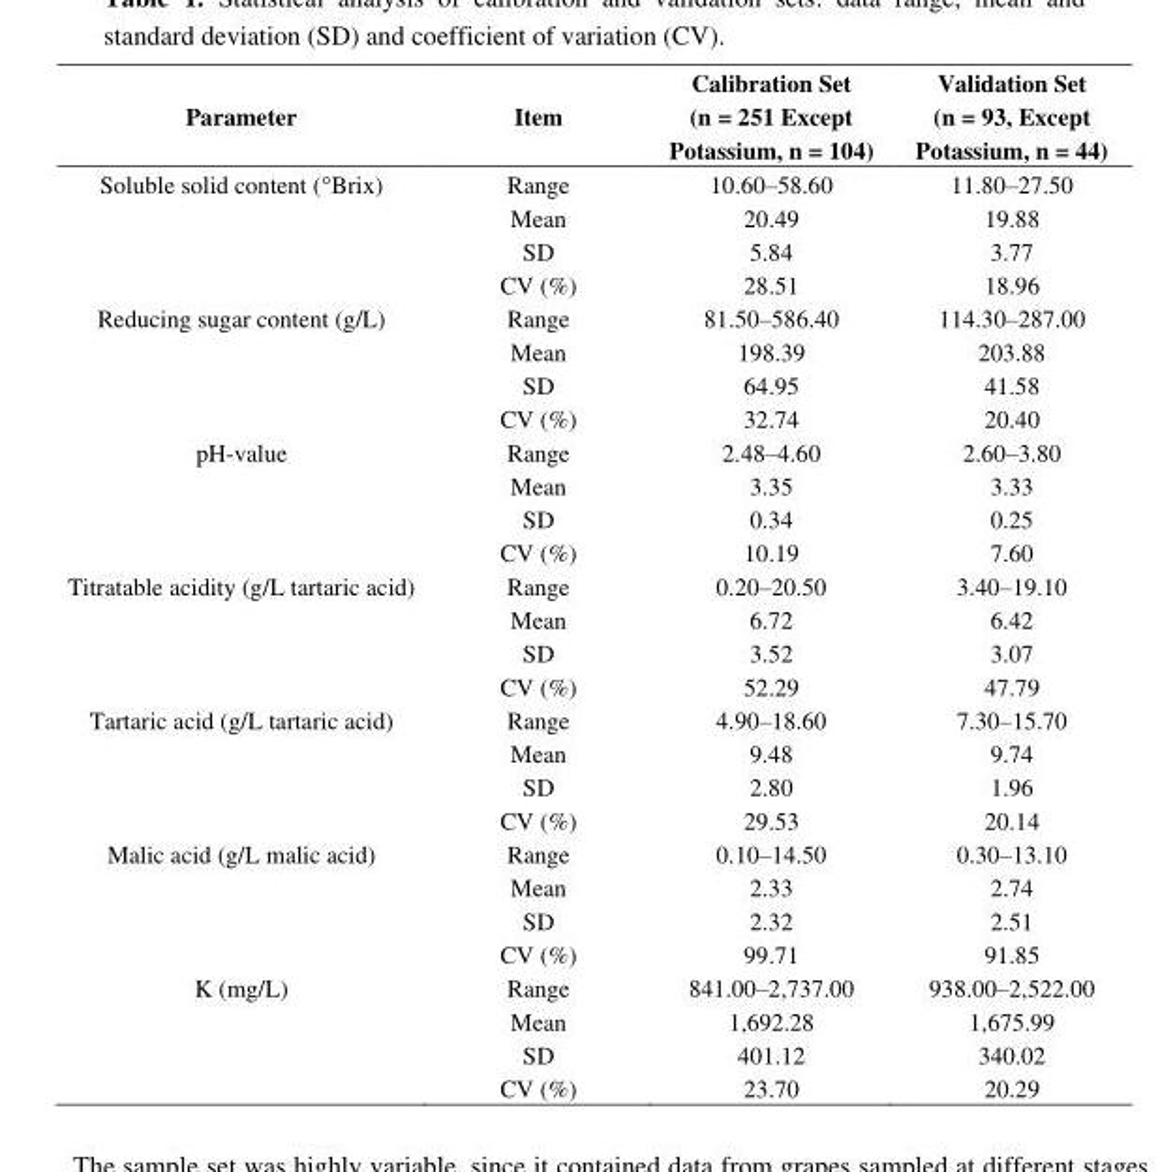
<table><thead><tr><td>Parameter</td><td>Item</td><td>Calibration Set (n = 251 Except Potassium, n = 104)</td><td>Validation Set (n = 93, Except Potassium, n = 44)</td></tr></thead><tbody><tr><td rowspan="4">Soluble solid content (°Brix)</td><td>Range</td><td>10.60–58.60</td><td>11.80–27.50</td></tr><tr><td>Mean</td><td>20.49</td><td>19.88</td></tr><tr><td>SD</td><td>5.84</td><td>3.77</td></tr><tr><td>CV (%)</td><td>28.51</td><td>18.96</td></tr><tr><td rowspan="4">Reducing sugar content (g/L)</td><td>Range</td><td>81.50–586.40</td><td>114.30–287.00</td></tr><tr><td>Mean</td><td>198.39</td><td>203.88</td></tr><tr><td>SD</td><td>64.95</td><td>41.58</td></tr><tr><td>CV (%)</td><td>32.74</td><td>20.40</td></tr><tr><td rowspan="4">pH-value</td><td>Range</td><td>2.48–4.60</td><td>2.60–3.80</td></tr><tr><td>Mean</td><td>3.35</td><td>3.33</td></tr><tr><td>SD</td><td>0.34</td><td>0.25</td></tr><tr><td>CV (%)</td><td>10.19</td><td>7.60</td></tr><tr><td rowspan="4">Titratable acidity (g/L tartaric acid)</td><td>Range</td><td>0.20–20.50</td><td>3.40–19.10</td></tr><tr><td>Mean</td><td>6.72</td><td>6.42</td></tr><tr><td>SD</td><td>3.52</td><td>3.07</td></tr><tr><td>CV (%)</td><td>52.29</td><td>47.79</td></tr><tr><td rowspan="4">Tartaric acid (g/L tartaric acid)</td><td>Range</td><td>4.90–18.60</td><td>7.30–15.70</td></tr><tr><td>Mean</td><td>9.48</td><td>9.74</td></tr><tr><td>SD</td><td>2.80</td><td>1.96</td></tr><tr><td>CV (%)</td><td>29.53</td><td>20.14</td></tr><tr><td rowspan="4">Malic acid (g/L malic acid)</td><td>Range</td><td>0.10–14.50</td><td>0.30–13.10</td></tr><tr><td>Mean</td><td>2.33</td><td>2.74</td></tr><tr><td>SD</td><td>2.32</td><td>2.51</td></tr><tr><td>CV (%)</td><td>99.71</td><td>91.85</td></tr><tr><td rowspan="4">K (mg/L)</td><td>Range</td><td>841.00–2,737.00</td><td>938.00–2,522.00</td></tr><tr><td>Mean</td><td>1,692.28</td><td>1,675.99</td></tr><tr><td>SD</td><td>401.12</td><td>340.02</td></tr><tr><td>CV (%)</td><td>23.70</td><td>20.29</td></tr></tbody></table>